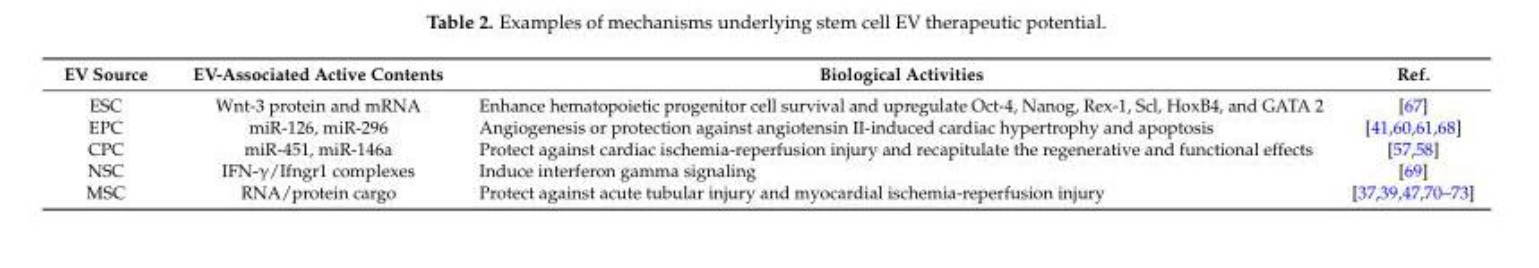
<table><thead><tr><td>EV Source</td><td>EV-Associated Active Contents</td><td>Biological Activities</td><td>Ref.</td></tr></thead><tbody><tr><td>ESC</td><td>Wnt-3 protein and mRNA</td><td>Enhance hematopoietic progenitor cell survival and upregulate Oct-4, Nanog, Rex-1, Scl, HoxB4, and GATA 2</td><td>[67]</td></tr><tr><td>EPC</td><td>miR-126, miR-296</td><td>Angiogenesis or protection against angiotensin II-induced cardiac hypertrophy and apoptosis</td><td>[41,60,61,68]</td></tr><tr><td>CPC</td><td>miR-451, miR-146a</td><td>Protect against cardiac ischemia-reperfusion injury and recapitulate the regenerative and functional effects</td><td>[57,58]</td></tr><tr><td>NSC</td><td>IFN-γ/Ifngr1 complexes</td><td>Induce interferon gamma signaling</td><td>[69]</td></tr><tr><td>MSC</td><td>RNA/protein cargo</td><td>Protect against acute tubular injury and myocardial ischemia-reperfusion injury</td><td>[37,39,47,70–73]</td></tr></tbody></table>